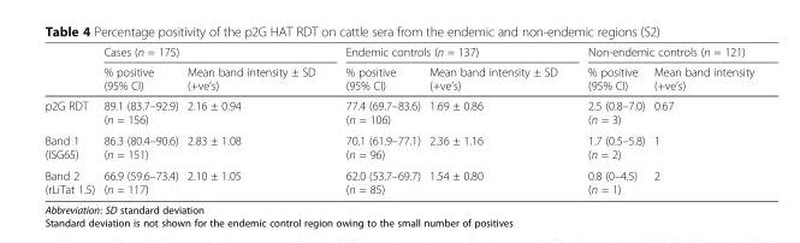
<table><thead><tr><td rowspan="2"></td><td colspan="2">Cases (n = 175)</td><td colspan="2">Endemic controls (n = 137)</td><td colspan="2">Non-endemic controls (n = 121)</td></tr><tr><td>% positive (95% CI)</td><td>Mean band intensity ± SD (+ve’s)</td><td>% positive (95% CI)</td><td>Mean band intensity ± SD (+ve’s)</td><td>% positive (95% CI)</td><td>Mean band intensity (+ve’s)</td></tr></thead><tbody><tr><td>p2G RDT</td><td>89.1 (83.7–92.9) (n = 156)</td><td>2.16 ± 0.94</td><td>77.4 (69.7–83.6) (n = 106)</td><td>1.69 ± 0.86</td><td>2.5 (0.8–7.0) (n = 3)</td><td>0.67</td></tr><tr><td>Band 1 (ISG65)</td><td>86.3 (80.4–90.6) (n = 151)</td><td>2.83 ± 1.08</td><td>70.1 (61.9–77.1) (n = 96)</td><td>2.36 ± 1.16</td><td>1.7 (0.5–5.8) (n = 2)</td><td>1</td></tr><tr><td>Band 2 (rLiTat 1.5)</td><td>66.9 (59.6–73.4) (n = 117)</td><td>2.10 ± 1.05</td><td>62.0 (53.7–69.7) (n = 85)</td><td>1.54 ± 0.80</td><td>0.8 (0–4.5) (n = 1)</td><td>2</td></tr></tbody></table>